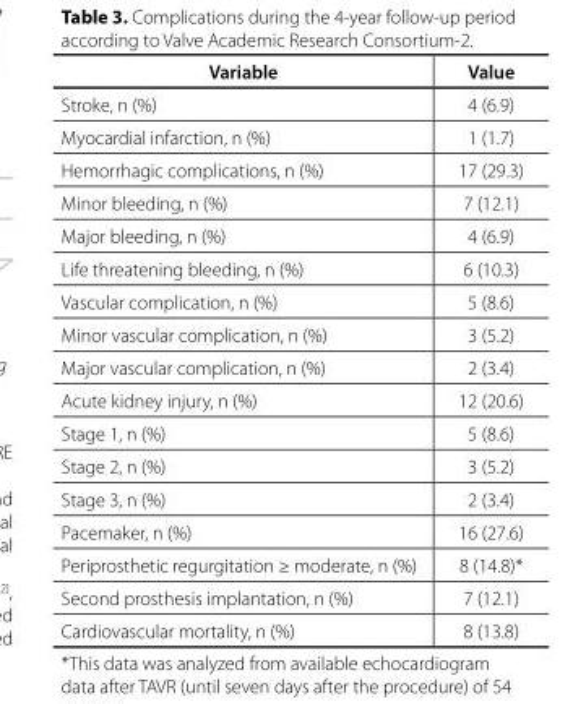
<table><thead><tr><td>Variable</td><td>Value</td></tr></thead><tbody><tr><td>Stroke, n (%)</td><td>4 (6.9)</td></tr><tr><td>Myocardial infarction, n (%)</td><td>1 (1.7)</td></tr><tr><td>Hemorrhagic complications, n (%)</td><td>17 (29.3)</td></tr><tr><td>Minor bleeding, n (%)</td><td>7 (12.1)</td></tr><tr><td>Major bleeding, n (%)</td><td>4 (6.9)</td></tr><tr><td>Life threatening bleeding, n (%)</td><td>6 (10.3)</td></tr><tr><td>Vascular complication, n (%)</td><td>5 (8.6)</td></tr><tr><td>Minor vascular complication, n (%)</td><td>3 (5.2)</td></tr><tr><td>Major vascular complication, n (%)</td><td>2 (3.4)</td></tr><tr><td>Acute kidney injury, n (%)</td><td>12 (20.6)</td></tr><tr><td>Stage 1, n (%)</td><td>5 (8.6)</td></tr><tr><td>Stage 2, n (%)</td><td>3 (5.2)</td></tr><tr><td>Stage 3, n (%)</td><td>2 (3.4)</td></tr><tr><td>Pacemaker, n (%)</td><td>16 (27.6)</td></tr><tr><td>Periprosthetic regurgitation ≥ moderate, n (%)</td><td>8 (14.8)*</td></tr><tr><td>Second prosthesis implantation, n (%)</td><td>7 (12.1)</td></tr><tr><td>Cardiovascular mortality, n (%)</td><td>8 (13.8)</td></tr></tbody></table>